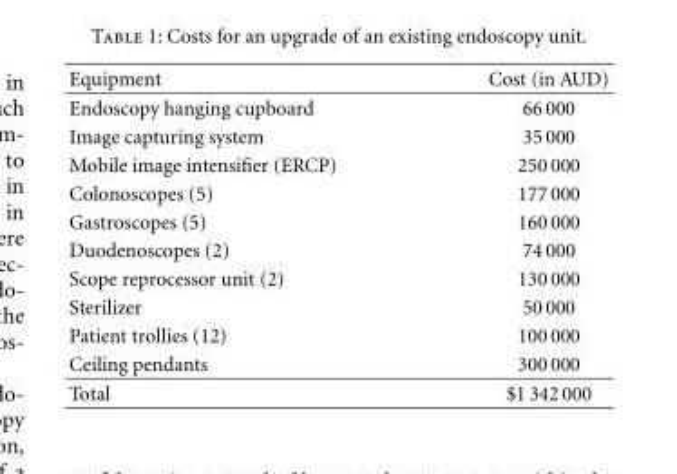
<table><thead><tr><td>Equipment</td><td>Cost (in AUD)</td></tr></thead><tbody><tr><td>Endoscopy hanging cupboard</td><td>66 000</td></tr><tr><td>Image capturing system</td><td>35 000</td></tr><tr><td>Mobile image intensifier (ERCP)</td><td>250 000</td></tr><tr><td>Colonoscopes (5)</td><td>177 000</td></tr><tr><td>Gastroscopes (5)</td><td>160 000</td></tr><tr><td>Duodenoscopes (2)</td><td>74 000</td></tr><tr><td>Scope reprocessor unit (2)</td><td>130 000</td></tr><tr><td>Sterilizer</td><td>50 000</td></tr><tr><td>Patient trollies (12)</td><td>100 000</td></tr><tr><td>Ceiling pendants</td><td>300 000</td></tr><tr><td>Total</td><td>$1 342 000</td></tr></tbody></table>